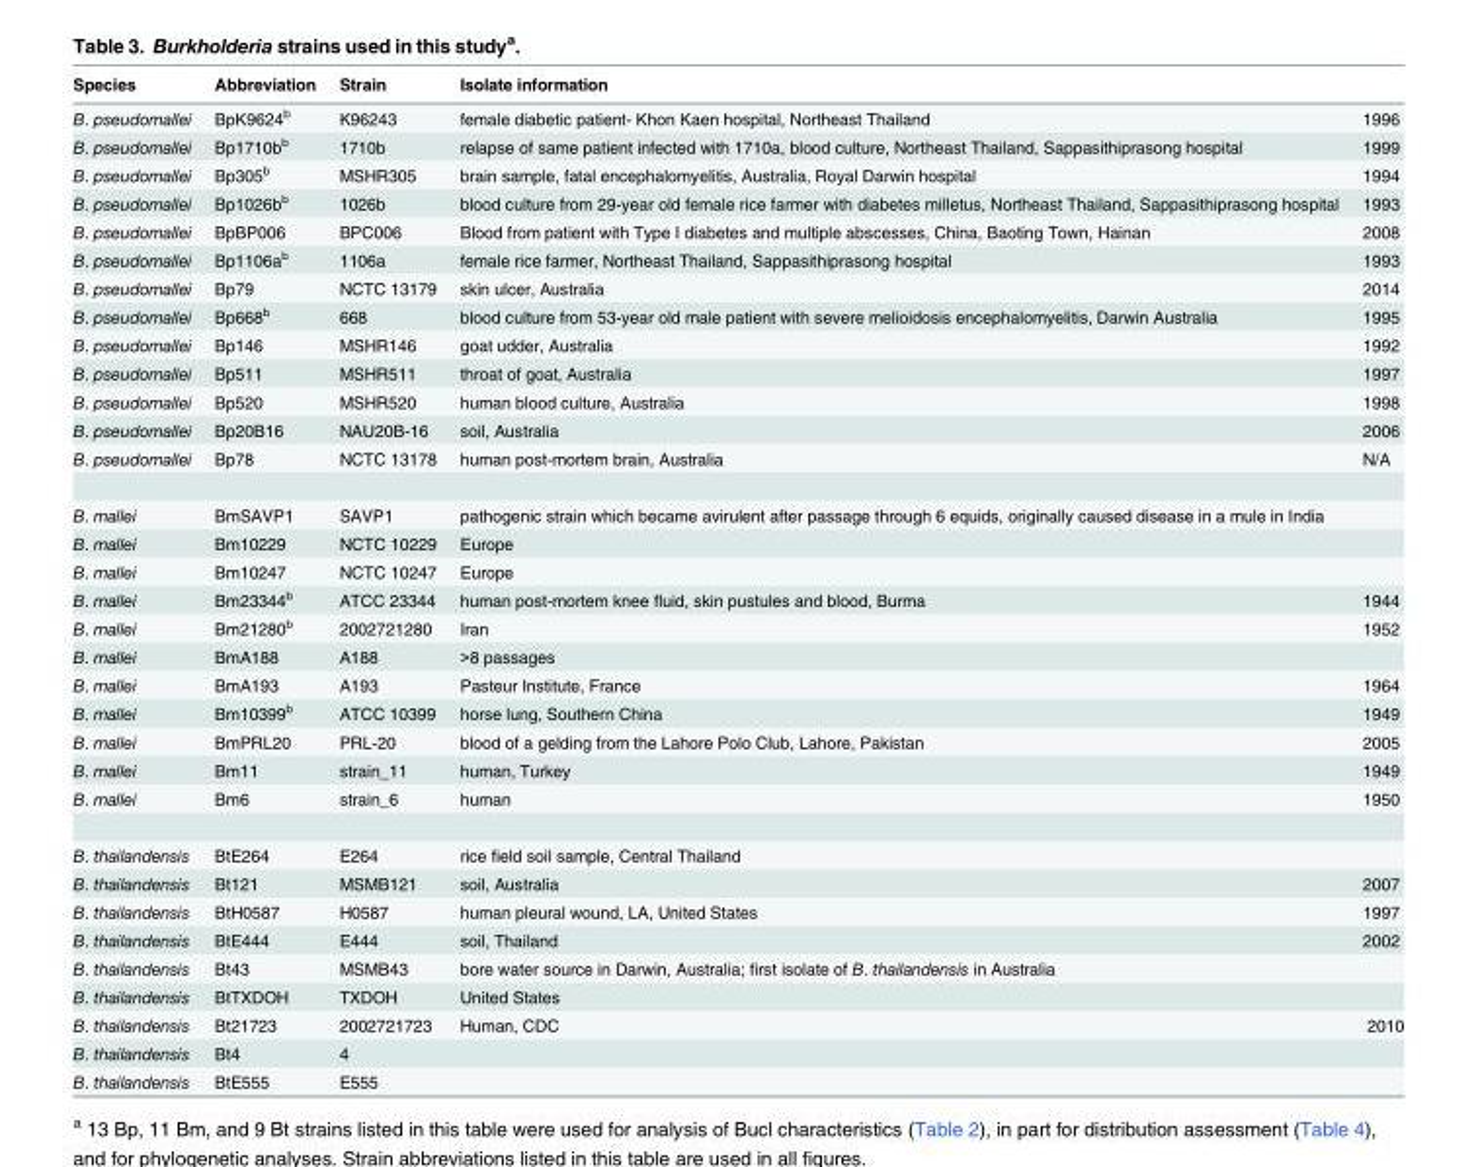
<table><thead><tr><td rowspan="2">Species B. pseudomallei</td><td rowspan="2">Abbreviation BpK9624<sup>b</sup></td><td rowspan="2">Strain K96243</td><td colspan="2">Isolate information</td></tr><tr><td>female diabetic patient- Khon Kaen hospital, Northeast Thailand</td><td>1996</td></tr></thead><tbody><tr><td>B. pseudomallei</td><td>Bp1710b<sup>b</sup></td><td>1710b</td><td>relapse of same patient infected with 1710a, blood culture, Northeast Thailand, Sappasithiprasong hospital</td><td>1999</td></tr><tr><td>B. pseudomallei</td><td>Bp305<sup>b</sup></td><td>MSHR305</td><td>brain sample, fatal encephalomyelitis, Australia, Royal Darwin hospital</td><td>1994</td></tr><tr><td>B. pseudomallei</td><td>Bp1026b<sup>b</sup></td><td>1026b</td><td>blood culture from 29-year old female rice farmer with diabetes milletus, Northeast Thailand, Sappasithiprasong hospital</td><td>1993</td></tr><tr><td>B. pseudomallei</td><td>BpBP006</td><td>BPC006</td><td>Blood from patient with Type I diabetes and multiple abscesses, China, Baoting Town, Hainan</td><td>2008</td></tr><tr><td>B. pseudomallei</td><td>Bp1106a<sup>b</sup></td><td>1106a</td><td>female rice farmer, Northeast Thailand, Sappasithiprasong hospital</td><td>1993</td></tr><tr><td>B. pseudomallei</td><td>Bp79</td><td>NCTC 13179</td><td>skin ulcer, Australia</td><td>2014</td></tr><tr><td>B. pseudomallei</td><td>Bp668<sup>b</sup></td><td>668</td><td>blood culture from 53-year old male patient with severe melioidosis encephalomyelitis, Darwin Australia</td><td>1995</td></tr><tr><td>B. pseudomallei</td><td>Bp146</td><td>MSHR146</td><td>goat udder, Australia</td><td>1992</td></tr><tr><td>B. pseudomallei</td><td>Bp511</td><td>MSHR511</td><td>throat of goat, Australia</td><td>1997</td></tr><tr><td>B. pseudomallei</td><td>Bp520</td><td>MSHR520</td><td>human blood culture, Australia</td><td>1998</td></tr><tr><td>B. pseudomallei</td><td>Bp20B16</td><td>NAU20B-16</td><td>soil, Australia</td><td>2006</td></tr><tr><td>B. pseudomallei</td><td>Bp78</td><td>NCTC 13178</td><td>human post-mortem brain, Australia</td><td>N/A</td></tr><tr><td>B. mallei</td><td>BmSAVP1</td><td>SAVP1</td><td>pathogenic strain which became avirulent after passage through 6 equids, originally caused disease in a mule in India</td><td></td></tr><tr><td>B. mallei</td><td>Bm10229</td><td>NCTC 10229</td><td>Europe</td><td></td></tr><tr><td>B. mallei</td><td>Bm10247</td><td>NCTC 10247</td><td>Europe</td><td></td></tr><tr><td>B. mallei</td><td>Bm23344<sup>b</sup></td><td>ATCC 23344</td><td>human post-mortem knee fluid, skin pustules and blood, Burma</td><td>1944</td></tr><tr><td>B. mallei</td><td>Bm21280<sup>b</sup></td><td>2002721280</td><td>Iran</td><td>1952</td></tr><tr><td>B. mallei</td><td>BmA188</td><td>A188</td><td>&gt;8 passages</td><td></td></tr><tr><td>B. mallei</td><td>BmA193</td><td>A193</td><td>Pasteur Institute, France</td><td>1964</td></tr><tr><td>B. mallei</td><td>Bm10399<sup>b</sup></td><td>ATCC 10399</td><td>horse lung, Southern China</td><td>1949</td></tr><tr><td>B. mallei</td><td>BmPRL20</td><td>PRL-20</td><td>blood of a gelding from the Lahore Polo Club, Lahore, Pakistan</td><td>2005</td></tr><tr><td>B. mallei</td><td>Bm11</td><td>strain_11</td><td>human, Turkey</td><td>1949</td></tr><tr><td>B. mallei</td><td>Bm6</td><td>strain_6</td><td>human</td><td>1950</td></tr><tr><td>B. thailandensis</td><td>BtE264</td><td>E264</td><td>rice field soil sample, Central Thailand</td><td></td></tr><tr><td>B. thailandensis</td><td>Bt121</td><td>MSMB121</td><td>soil, Australia</td><td>2007</td></tr><tr><td>B. thailandensis</td><td>BtH0587</td><td>H0587</td><td>human pleural wound, LA, United States</td><td>1997</td></tr><tr><td>B. thailandensis</td><td>BtE444</td><td>E444</td><td>soil, Thailand</td><td>2002</td></tr><tr><td>B. thailandensis</td><td>Bt43</td><td>MSMB43</td><td>bore water source in Darwin, Australia; first isolate of B. thailandensis in Australia</td><td></td></tr><tr><td>B. thailandensis</td><td>BtTXDOH</td><td>TXDOH</td><td>United States</td><td></td></tr><tr><td>B. thailandensis</td><td>Bt21723</td><td>2002721723</td><td>Human, CDC</td><td>2010</td></tr><tr><td>B. thailandensis</td><td>Bt4</td><td>4</td><td></td><td></td></tr><tr><td>B. thailandensis</td><td>BtE555</td><td>E555</td><td></td><td></td></tr></tbody></table>